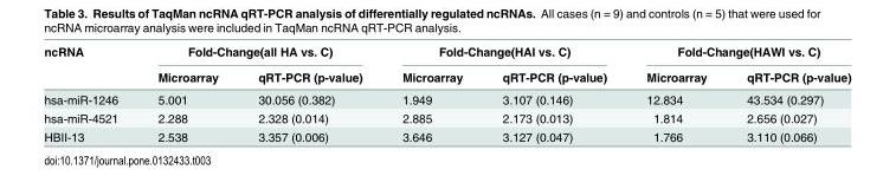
<table><thead><tr><td rowspan="2">ncRNA</td><td colspan="2">Fold-Change(all HA vs. C)</td><td colspan="2">Fold-Change(HAI vs. C)</td><td colspan="2">Fold-Change(HAWI vs. C)</td></tr><tr><td>Microarray</td><td>qRT-PCR (p-value)</td><td>Microarray</td><td>qRT-PCR (p-value)</td><td>Microarray</td><td>qRT-PCR (p-value)</td></tr></thead><tbody><tr><td>hsa-miR-1246</td><td>5.001</td><td>30.056 (0.382)</td><td>1.949</td><td>3.107 (0.146)</td><td>12.834</td><td>43.534 (0.297)</td></tr><tr><td>hsa-miR-4521</td><td>2.288</td><td>2.328 (0.014)</td><td>2.885</td><td>2.173 (0.013)</td><td>1.814</td><td>2.656 (0.027)</td></tr><tr><td>HBII-13</td><td>2.538</td><td>3.357 (0.006)</td><td>3.646</td><td>3.127 (0.047)</td><td>1.766</td><td>3.110 (0.066)</td></tr></tbody></table>